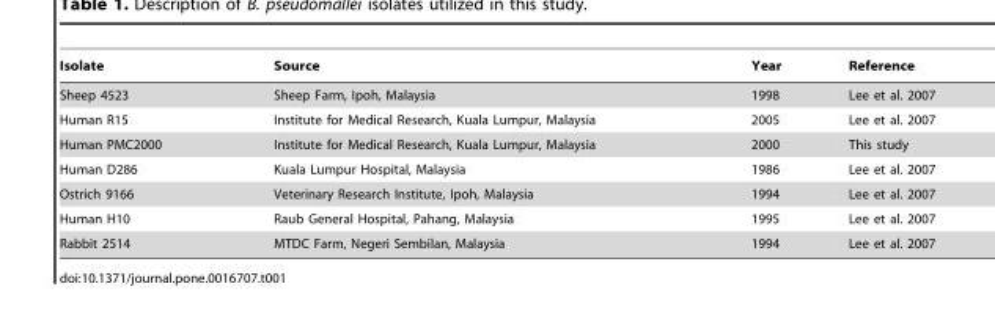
<table><thead><tr><td>Isolate</td><td>Source</td><td>Year</td><td>Reference</td></tr></thead><tbody><tr><td>Sheep 4523</td><td>Sheep Farm, Ipoh, Malaysia</td><td>1998</td><td>Lee et al. 2007</td></tr><tr><td>Human R15</td><td>Institute for Medical Research, Kuala Lumpur, Malaysia</td><td>2005</td><td>Lee et al. 2007</td></tr><tr><td>Human PMC2000</td><td>Institute for Medical Research, Kuala Lumpur, Malaysia</td><td>2000</td><td>This study</td></tr><tr><td>Human D286</td><td>Kuala Lumpur Hospital, Malaysia</td><td>1986</td><td>Lee et al. 2007</td></tr><tr><td>Ostrich 9166</td><td>Veterinary Research Institute, Ipoh, Malaysia</td><td>1994</td><td>Lee et al. 2007</td></tr><tr><td>Human H10</td><td>Raub General Hospital, Pahang, Malaysia</td><td>1995</td><td>Lee et al. 2007</td></tr><tr><td>Rabbit 2514</td><td>MTDC Farm, Negeri Sembilan, Malaysia</td><td>1994</td><td>Lee et al. 2007</td></tr></tbody></table>